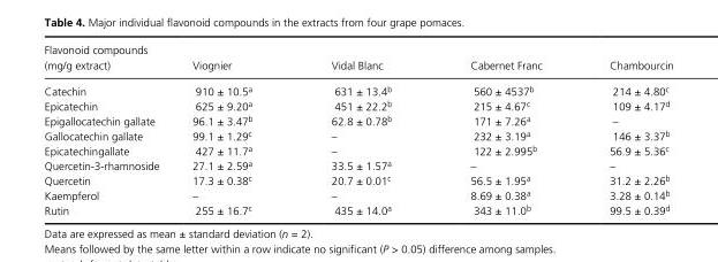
<table><thead><tr><td>Flavonoid compounds (mg/g extract)</td><td>Viognier</td><td>Vidal Blanc</td><td>Cabernet Franc</td><td>Chambourcin</td></tr></thead><tbody><tr><td>Catechin</td><td>910 ± 10.5<sup>a</sup></td><td>631 ± 13.4<sup>b</sup></td><td>560 ± 4537<sup>b</sup></td><td>214 ± 4.80<sup>c</sup></td></tr><tr><td>Epicatechin</td><td>625 ± 9.20<sup>a</sup></td><td>451 ± 22.2<sup>b</sup></td><td>215 ± 4.67<sup>c</sup></td><td>109 ± 4.17<sup>d</sup></td></tr><tr><td>Epigallocatechin gallate</td><td>96.1 ± 3.47<sup>b</sup></td><td>62.8 ± 0.78<sup>b</sup></td><td>171 ± 7.26<sup>a</sup></td><td>–</td></tr><tr><td>Gallocatechin gallate</td><td>99.1 ± 1.29<sup>c</sup></td><td>–</td><td>232 ± 3.19<sup>a</sup></td><td>146 ± 3.37<sup>b</sup></td></tr><tr><td>Epicatechingallate</td><td>427 ± 11.7<sup>a</sup></td><td>–</td><td>122 ± 2.995<sup>b</sup></td><td>56.9 ± 5.36<sup>c</sup></td></tr><tr><td>Quercetin- 3- rhamnoside</td><td>27.1 ± 2.59<sup>a</sup></td><td>33.5 ± 1.57<sup>a</sup></td><td>–</td><td>–</td></tr><tr><td>Quercetin</td><td>17.3 ± 0.38<sup>c</sup></td><td>20.7 ± 0.01<sup>c</sup></td><td>56.5 ± 1.95<sup>a</sup></td><td>31.2 ± 2.26<sup>b</sup></td></tr><tr><td>Kaempferol</td><td>–</td><td>–</td><td>8.69 ± 0.38<sup>a</sup></td><td>3.28 ± 0.14<sup>b</sup></td></tr><tr><td>Rutin</td><td>255 ± 16.7<sup>c</sup></td><td>435 ± 14.0<sup>a</sup></td><td>343 ± 11.0<sup>b</sup></td><td>99.5 ± 0.39<sup>d</sup></td></tr></tbody></table>